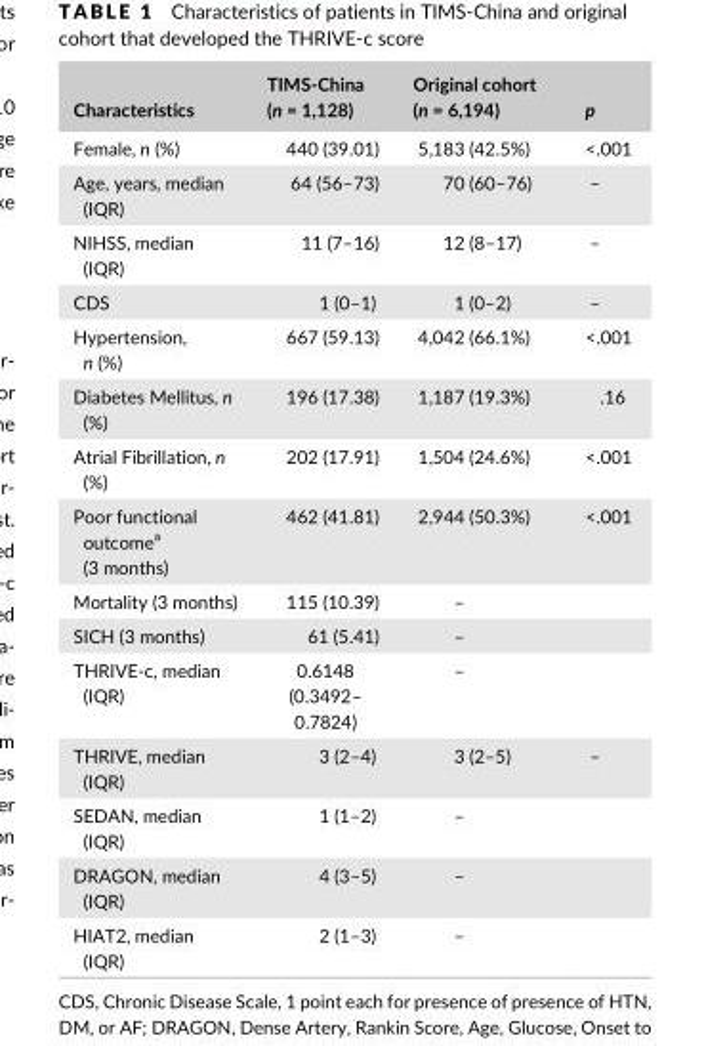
<table><thead><tr><td>Characteristics</td><td>TIMS- China (n = 1,128)</td><td>Original cohort (n = 6,194)</td><td>p</td></tr></thead><tbody><tr><td>Female, n (%)</td><td>440 (39.01)</td><td>5,183 (42.5%)</td><td>&lt;.001</td></tr><tr><td>Age, years, median (IQR)</td><td>64 (56–73)</td><td>70 (60–76)</td><td>–</td></tr><tr><td>NIHSS, median (IQR)</td><td>11 (7–16)</td><td>12 (8–17)</td><td>–</td></tr><tr><td>CDS</td><td>1 (0–1)</td><td>1 (0–2)</td><td>–</td></tr><tr><td>Hypertension, n (%)</td><td>667 (59.13)</td><td>4,042 (66.1%)</td><td>&lt;.001</td></tr><tr><td>Diabetes Mellitus, n (%)</td><td>196 (17.38)</td><td>1,187 (19.3%)</td><td>.16</td></tr><tr><td>Atrial Fibrillation, n (%)</td><td>202 (17.91)</td><td>1,504 (24.6%)</td><td>&lt;.001</td></tr><tr><td>Poor functional outcome<sup>a</sup> (3 months)</td><td>462 (41.81)</td><td>2,944 (50.3%)</td><td>&lt;.001</td></tr><tr><td>Mortality (3 months)</td><td>115 (10.39)</td><td>–</td><td></td></tr><tr><td>SICH (3 months)</td><td>61 (5.41)</td><td>–</td><td></td></tr><tr><td>THRIVE- c, median (IQR)</td><td>0.6148 (0.3492– 0.7824)</td><td>–</td><td></td></tr><tr><td>THRIVE, median (IQR)</td><td>3 (2–4)</td><td>3 (2–5)</td><td>–</td></tr><tr><td>SEDAN, median (IQR)</td><td>1 (1–2)</td><td>–</td><td></td></tr><tr><td>DRAGON, median (IQR)</td><td>4 (3–5)</td><td>–</td><td></td></tr><tr><td>HIAT2, median (IQR)</td><td>2 (1–3)</td><td>–</td><td></td></tr></tbody></table>